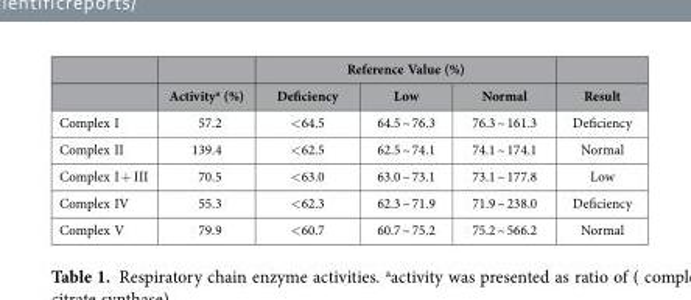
<table><thead><tr><td rowspan="2"></td><td rowspan="2">Activity<sup>a</sup> (%)</td><td colspan="3">Reference Value (%)</td><td rowspan="2">Result</td></tr><tr><td>Deficiency</td><td>Low</td><td>Normal</td></tr></thead><tbody><tr><td>Complex I</td><td>57.2</td><td>&lt;64.5</td><td>64.5 ~ 76.3</td><td>76.3 ~ 161.3</td><td>Deficiency</td></tr><tr><td>Complex II</td><td>139.4</td><td>&lt;62.5</td><td>62.5 ~ 74.1</td><td>74.1 ~ 174.1</td><td>Normal</td></tr><tr><td>Complex I + III</td><td>70.5</td><td>&lt;63.0</td><td>63.0 ~ 73.1</td><td>73.1 ~ 177.8</td><td>Low</td></tr><tr><td>Complex IV</td><td>55.3</td><td>&lt;62.3</td><td>62.3 ~ 71.9</td><td>71.9 ~ 238.0</td><td>Deficiency</td></tr><tr><td>Complex V</td><td>79.9</td><td>&lt;60.7</td><td>60.7 ~ 75.2</td><td>75.2 ~ 566.2</td><td>Normal</td></tr></tbody></table>